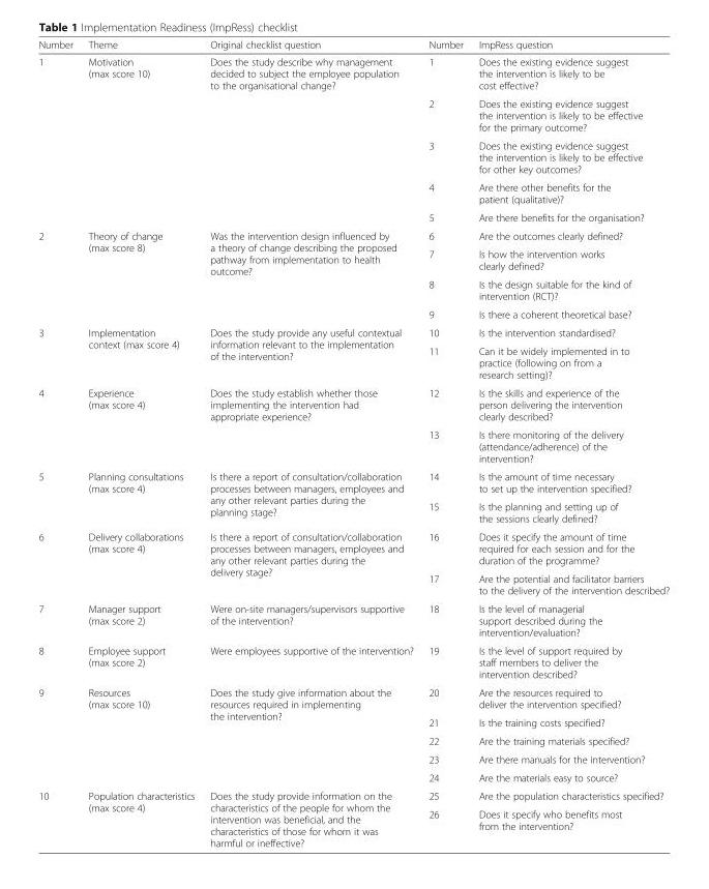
<table><thead><tr><td>Number</td><td>Theme</td><td>Original checklist question</td><td>Number</td><td>ImpRess question</td></tr></thead><tbody><tr><td rowspan="5">1</td><td rowspan="5">Motivation (max score 10)</td><td rowspan="5">Does the study describe why management decided to subject the employee population to the organisational change?</td><td>1</td><td>Does the existing evidence suggest the intervention is likely to be cost effective?</td></tr><tr><td>2</td><td>Does the existing evidence suggest the intervention is likely to be effective for the primary outcome?</td></tr><tr><td>3</td><td>Does the existing evidence suggest the intervention is likely to be effective for other key outcomes?</td></tr><tr><td>4</td><td>Are there other benefits for the patient (qualitative)?</td></tr><tr><td>5</td><td>Are there benefits for the organisation?</td></tr><tr><td rowspan="4">2</td><td rowspan="4">Theory of change (max score 8)</td><td rowspan="4">Was the intervention design influenced by a theory of change describing the proposed pathway from implementation to health outcome?</td><td>6</td><td>Are the outcomes clearly defined?</td></tr><tr><td>7</td><td>Is how the intervention works clearly defined?</td></tr><tr><td>8</td><td>Is the design suitable for the kind of intervention (RCT)?</td></tr><tr><td>9</td><td>Is there a coherent theoretical base?</td></tr><tr><td rowspan="2">3</td><td rowspan="2">Implementation context (max score 4)</td><td rowspan="2">Does the study provide any useful contextual information relevant to the implementation of the intervention?</td><td>10</td><td>Is the intervention standardised?</td></tr><tr><td>11</td><td>Can it be widely implemented in to practice (following on from a research setting)?</td></tr><tr><td rowspan="2">4</td><td rowspan="2">Experience (max score 4)</td><td rowspan="2">Does the study establish whether those implementing the intervention had appropriate experience?</td><td>12</td><td>Is the skills and experience of the person delivering the intervention clearly described?</td></tr><tr><td>13</td><td>Is there monitoring of the delivery (attendance/adherence) of the intervention?</td></tr><tr><td rowspan="2">5</td><td rowspan="2">Planning consultations (max score 4)</td><td rowspan="2">Is there a report of consultation/collaboration processes between managers, employees and any other relevant parties during the planning stage?</td><td>14</td><td>Is the amount of time necessary to set up the intervention specified?</td></tr><tr><td>15</td><td>Is the planning and setting up of the sessions clearly defined?</td></tr><tr><td rowspan="2">6</td><td rowspan="2">Delivery collaborations (max score 4)</td><td rowspan="2">Is there a report of consultation/collaboration processes between managers, employees and any other relevant parties during the delivery stage?</td><td>16</td><td>Does it specify the amount of time required for each session and for the duration of the programme?</td></tr><tr><td>17</td><td>Are the potential and facilitator barriers to the delivery of the intervention described?</td></tr><tr><td>7</td><td>Manager support (max score 2)</td><td>Were on-site managers/supervisors supportive of the intervention?</td><td>18</td><td>Is the level of managerial support described during the intervention/evaluation?</td></tr><tr><td>8</td><td>Employee support (max score 2)</td><td>Were employees supportive of the intervention?</td><td>19</td><td>Is the level of support required by staff members to deliver the intervention described?</td></tr><tr><td rowspan="5">9</td><td rowspan="5">Resources (max score 10)</td><td rowspan="5">Does the study give information about the resources required in implementing the intervention?</td><td>20</td><td>Are the resources required to deliver the intervention specified?</td></tr><tr><td>21</td><td>Is the training costs specified?</td></tr><tr><td>22</td><td>Are the training materials specified?</td></tr><tr><td>23</td><td>Are there manuals for the intervention?</td></tr><tr><td>24</td><td>Are the materials easy to source?</td></tr><tr><td rowspan="2">10</td><td rowspan="2">Population characteristics (max score 4)</td><td rowspan="2">Does the study provide information on the characteristics of the people for whom the intervention was beneficial, and the characteristics of those for whom it was harmful or ineffective?</td><td>25</td><td>Are the population characteristics specified?</td></tr><tr><td>26</td><td>Does it specify who benefits most from the intervention?</td></tr></tbody></table>